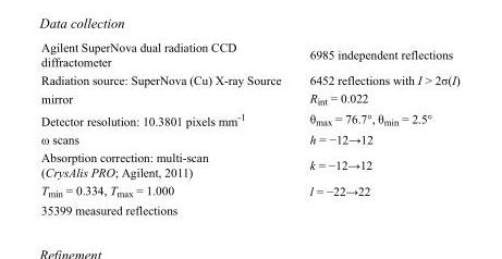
<table><tbody><tr><td>Agilent SuperNova dual radiation CCD diffractometer</td><td>6985 independent reflections</td></tr><tr><td>Radiation source: SuperNova (Cu) X-ray Source</td><td>6452 reflections with I &gt; 2σ(I)</td></tr><tr><td>mirror</td><td>R<sub>int</sub> = 0.022</td></tr><tr><td>Detector resolution: 10.3801 pixels mm<sup>-1</sup></td><td>θ<sub>max</sub> = 76.7°, θ<sub>min</sub> = 2.5°</td></tr><tr><td>ω scans</td><td>h = −12→12</td></tr><tr><td>Absorption correction: multi-scan (CrysAlis PRO; Agilent, 2011)</td><td>k = −12→12</td></tr><tr><td>T<sub>min</sub> = 0.334, T<sub>max</sub> = 1.000</td><td>l = −22→22</td></tr><tr><td>35399 measured reflections</td><td></td></tr></tbody></table>